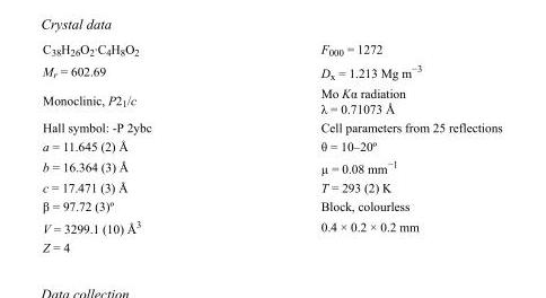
<table><tbody><tr><td>C<sub>38</sub>H<sub>26</sub>O<sub>2</sub>·C<sub>4</sub>H<sub>8</sub>O<sub>2</sub></td><td>F<sub>000</sub> = 1272</td></tr><tr><td>M<sub>r</sub> = 602.69</td><td>D<sub>x</sub> = 1.213 Mg m<sup>−3</sup></td></tr><tr><td>Monoclinic, P2<sub>1</sub>/c</td><td>Mo Kα radiation λ = 0.71073 Å</td></tr><tr><td>Hall symbol: -P 2ybc</td><td>Cell parameters from 25 reflections</td></tr><tr><td>a = 11.645 (2) Å</td><td>θ = 10–20º</td></tr><tr><td>b = 16.364 (3) Å</td><td>µ = 0.08 mm<sup>−1</sup></td></tr><tr><td>c = 17.471 (3) Å</td><td>T = 293 (2) K</td></tr><tr><td>β = 97.72 (3)º</td><td>Block, colourless</td></tr><tr><td>V = 3299.1 (10) Å<sup>3</sup></td><td>0.4 × 0.2 × 0.2 mm</td></tr><tr><td>Z = 4</td><td></td></tr></tbody></table>